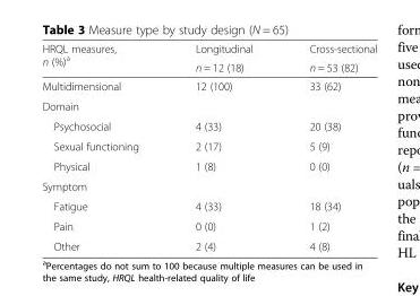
<table><thead><tr><td rowspan="2">HRQL measures, n (%)<sup>a</sup></td><td rowspan="2">Longitudinal n = 12 (18)</td><td rowspan="2">Cross-sectional n = 53 (82)</td></tr><tr></tr></thead><tbody><tr><td>Multidimensional</td><td>12 (100)</td><td>33 (62)</td></tr><tr><td colspan="3">Domain</td></tr><tr><td>Psychosocial</td><td>4 (33)</td><td>20 (38)</td></tr><tr><td>Sexual functioning</td><td>2 (17)</td><td>5 (9)</td></tr><tr><td>Physical</td><td>1 (8)</td><td>0 (0)</td></tr><tr><td colspan="3">Symptom</td></tr><tr><td>Fatigue</td><td>4 (33)</td><td>18 (34)</td></tr><tr><td>Pain</td><td>0 (0)</td><td>1 (2)</td></tr><tr><td>Other</td><td>2 (4)</td><td>4 (8)</td></tr></tbody></table>